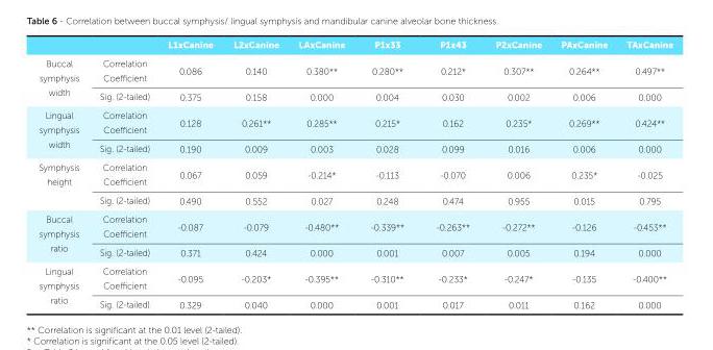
<table><thead><tr><td></td><td></td><td>L1xCanine</td><td>L2xCanine</td><td>LAxCanine</td><td>P1x33</td><td>P1x43</td><td>P2xCanine</td><td>PAxCanine</td><td>TAxCanine</td></tr></thead><tbody><tr><td rowspan="2">Buccal symphysis width</td><td>Correlation Coefficient</td><td>0.086</td><td>0.140</td><td>0.380**</td><td>0.280**</td><td>0.212*</td><td>0.307**</td><td>0.264**</td><td>0.497**</td></tr><tr><td>Sig. (2-tailed)</td><td>0.375</td><td>0.158</td><td>0.000</td><td>0.004</td><td>0.030</td><td>0.002</td><td>0.006</td><td>0.000</td></tr><tr><td rowspan="2">Lingual symphysis width</td><td>Correlation Coefficient</td><td>0.128</td><td>0.261**</td><td>0.285**</td><td>0.215*</td><td>0.162</td><td>0.235*</td><td>0.269**</td><td>0.424**</td></tr><tr><td>Sig. (2-tailed)</td><td>0.190</td><td>0.009</td><td>0.003</td><td>0.028</td><td>0.099</td><td>0.016</td><td>0.006</td><td>0.000</td></tr><tr><td rowspan="2">Symphysis height</td><td>Correlation Coefficient</td><td>0.067</td><td>0.059</td><td>-0.214*</td><td>-0.113</td><td>-0.070</td><td>0.006</td><td>0.235*</td><td>-0.025</td></tr><tr><td>Sig. (2-tailed)</td><td>0.490</td><td>0.552</td><td>0.027</td><td>0.248</td><td>0.474</td><td>0.955</td><td>0.015</td><td>0.795</td></tr><tr><td rowspan="2">Buccal symphysis ratio</td><td>Correlation Coefficient</td><td>-0.087</td><td>-0.079</td><td>-0.480**</td><td>-0.339**</td><td>-0.263**</td><td>-0.272**</td><td>-0.126</td><td>-0.453**</td></tr><tr><td>Sig. (2-tailed)</td><td>0.371</td><td>0.424</td><td>0.000</td><td>0.001</td><td>0.007</td><td>0.005</td><td>0.194</td><td>0.000</td></tr><tr><td rowspan="2">Lingual symphysis ratio</td><td>Correlation Coefficient</td><td>-0.095</td><td>-0.203*</td><td>-0.395**</td><td>-0.310**</td><td>-0.233*</td><td>-0.247*</td><td>-0.135</td><td>-0.400**</td></tr><tr><td>Sig. (2-tailed)</td><td>0.329</td><td>0.040</td><td>0.000</td><td>0.001</td><td>0.017</td><td>0.011</td><td>0.162</td><td>0.000</td></tr></tbody></table>